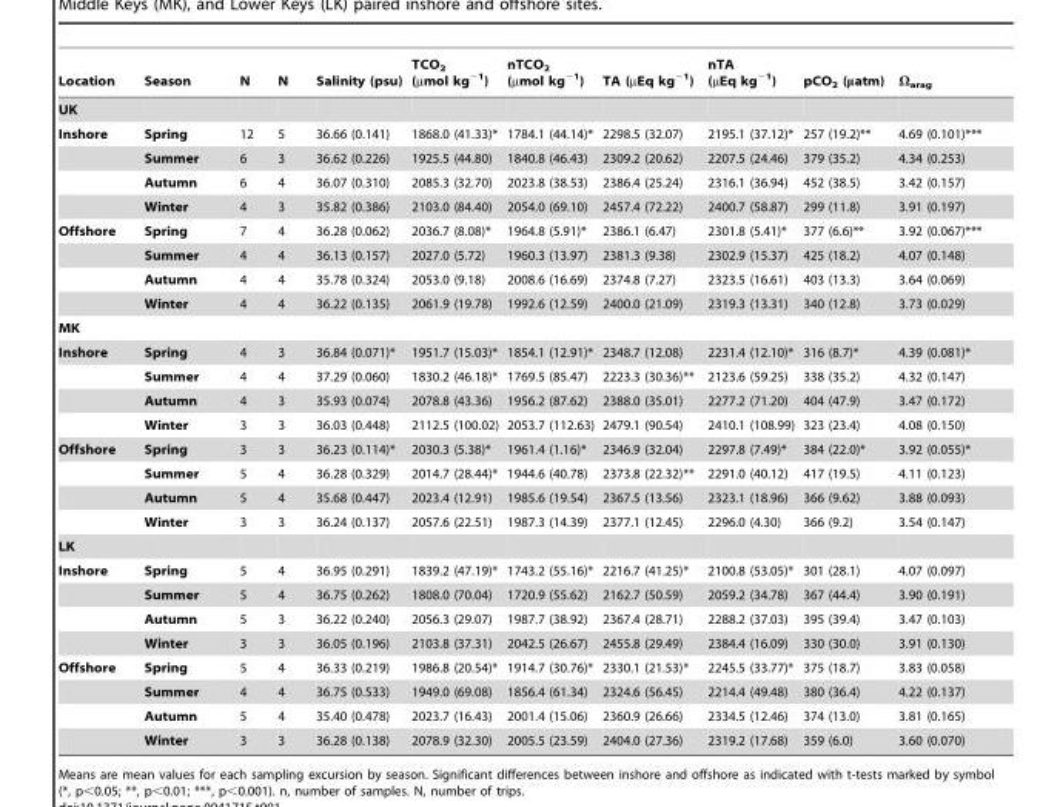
<table><thead><tr><td>Location</td><td>Season</td><td>N</td><td>N</td><td>Salinity (psu)</td><td>TCO<sub>2</sub> (µmol kg<sup>−1</sup>)</td><td>nTCO<sub>2</sub> (µmol kg<sup>−1</sup>)</td><td>TA (µEq kg<sup>−1</sup>)</td><td>nTA (µEq kg<sup>−1</sup>)</td><td>pCO<sub>2</sub> (μatm)</td><td>Ω<sub>arag</sub></td></tr></thead><tbody><tr><td colspan="11">UK</td></tr><tr><td rowspan="4">Inshore</td><td>Spring</td><td>12</td><td>5</td><td>36.66 (0.141)</td><td>1868.0 (41.33)*</td><td>1784.1 (44.14)*</td><td>2298.5 (32.07)</td><td>2195.1 (37.12)*</td><td>257 (19.2)**</td><td>4.69 (0.101)***</td></tr><tr><td>Summer</td><td>6</td><td>3</td><td>36.62 (0.226)</td><td>1925.5 (44.80)</td><td>1840.8 (46.43)</td><td>2309.2 (20.62)</td><td>2207.5 (24.46)</td><td>379 (35.2)</td><td>4.34 (0.253)</td></tr><tr><td>Autumn</td><td>6</td><td>4</td><td>36.07 (0.310)</td><td>2085.3 (32.70)</td><td>2023.8 (38.53)</td><td>2386.4 (25.24)</td><td>2316.1 (36.94)</td><td>452 (38.5)</td><td>3.42 (0.157)</td></tr><tr><td>Winter</td><td>4</td><td>3</td><td>35.82 (0.386)</td><td>2103.0 (84.40)</td><td>2054.0 (69.10)</td><td>2457.4 (72.22)</td><td>2400.7 (58.87)</td><td>299 (11.8)</td><td>3.91 (0.197)</td></tr><tr><td rowspan="4">Offshore</td><td>Spring</td><td>7</td><td>4</td><td>36.28 (0.062)</td><td>2036.7 (8.08)*</td><td>1964.8 (5.91)*</td><td>2386.1 (6.47)</td><td>2301.8 (5.41)*</td><td>377 (6.6)**</td><td>3.92 (0.067)***</td></tr><tr><td>Summer</td><td>4</td><td>4</td><td>36.13 (0.157)</td><td>2027.0 (5.72)</td><td>1960.3 (13.97)</td><td>2381.3 (9.38)</td><td>2302.9 (15.37)</td><td>425 (18.2)</td><td>4.07 (0.148)</td></tr><tr><td>Autumn</td><td>4</td><td>4</td><td>35.78 (0.324)</td><td>2053.0 (9.18)</td><td>2008.6 (16.69)</td><td>2374.8 (7.27)</td><td>2323.5 (16.61)</td><td>403 (13.3)</td><td>3.64 (0.069)</td></tr><tr><td>Winter</td><td>4</td><td>4</td><td>36.22 (0.135)</td><td>2061.9 (19.78)</td><td>1992.6 (12.59)</td><td>2400.0 (21.09)</td><td>2319.3 (13.31)</td><td>340 (12.8)</td><td>3.73 (0.029)</td></tr><tr><td colspan="11">MK</td></tr><tr><td rowspan="4">Inshore</td><td>Spring</td><td>4</td><td>3</td><td>36.84 (0.071)*</td><td>1951.7 (15.03)*</td><td>1854.1 (12.91)*</td><td>2348.7 (12.08)</td><td>2231.4 (12.10)*</td><td>316 (8.7)*</td><td>4.39 (0.081)*</td></tr><tr><td>Summer</td><td>4</td><td>4</td><td>37.29 (0.060)</td><td>1830.2 (46.18)*</td><td>1769.5 (85.47)</td><td>2223.3 (30.36)**</td><td>2123.6 (59.25)</td><td>338 (35.2)</td><td>4.32 (0.147)</td></tr><tr><td>Autumn</td><td>4</td><td>3</td><td>35.93 (0.074)</td><td>2078.8 (43.36)</td><td>1956.2 (87.62)</td><td>2388.0 (35.01)</td><td>2277.2 (71.20)</td><td>404 (47.9)</td><td>3.47 (0.172)</td></tr><tr><td>Winter</td><td>3</td><td>3</td><td>36.03 (0.448)</td><td>2112.5 (100.02)</td><td>2053.7 (112.63)</td><td>2479.1 (90.54)</td><td>2410.1 (108.99)</td><td>323 (23.4)</td><td>4.08 (0.150)</td></tr><tr><td rowspan="4">Offshore</td><td>Spring</td><td>3</td><td>3</td><td>36.23 (0.114)*</td><td>2030.3 (5.38)*</td><td>1961.4 (1.16)*</td><td>2346.9 (32.04)</td><td>2297.8 (7.49)*</td><td>384 (22.0)*</td><td>3.92 (0.055)*</td></tr><tr><td>Summer</td><td>5</td><td>4</td><td>36.28 (0.329)</td><td>2014.7 (28.44)*</td><td>1944.6 (40.78)</td><td>2373.8 (22.32)**</td><td>2291.0 (40.12)</td><td>417 (19.5)</td><td>4.11 (0.123)</td></tr><tr><td>Autumn</td><td>5</td><td>4</td><td>35.68 (0.447)</td><td>2023.4 (12.91)</td><td>1985.6 (19.54)</td><td>2367.5 (13.56)</td><td>2323.1 (18.96)</td><td>366 (9.62)</td><td>3.88 (0.093)</td></tr><tr><td>Winter</td><td>3</td><td>3</td><td>36.24 (0.137)</td><td>2057.6 (22.51)</td><td>1987.3 (14.39)</td><td>2377.1 (12.45)</td><td>2296.0 (4.30)</td><td>366 (9.2)</td><td>3.54 (0.147)</td></tr><tr><td colspan="11">LK</td></tr><tr><td rowspan="4">Inshore</td><td>Spring</td><td>5</td><td>4</td><td>36.95 (0.291)</td><td>1839.2 (47.19)*</td><td>1743.2 (55.16)*</td><td>2216.7 (41.25)*</td><td>2100.8 (53.05)*</td><td>301 (28.1)</td><td>4.07 (0.097)</td></tr><tr><td>Summer</td><td>5</td><td>4</td><td>36.75 (0.262)</td><td>1808.0 (70.04)</td><td>1720.9 (55.62)</td><td>2162.7 (50.59)</td><td>2059.2 (34.78)</td><td>367 (44.4)</td><td>3.90 (0.191)</td></tr><tr><td>Autumn</td><td>5</td><td>3</td><td>36.22 (0.240)</td><td>2056.3 (29.07)</td><td>1987.7 (38.92)</td><td>2367.4 (28.71)</td><td>2288.2 (37.03)</td><td>395 (39.4)</td><td>3.47 (0.103)</td></tr><tr><td>Winter</td><td>3</td><td>3</td><td>36.05 (0.196)</td><td>2103.8 (37.31)</td><td>2042.5 (26.67)</td><td>2455.8 (29.49)</td><td>2384.4 (16.09)</td><td>330 (30.0)</td><td>3.91 (0.130)</td></tr><tr><td rowspan="4">Offshore</td><td>Spring</td><td>5</td><td>4</td><td>36.33 (0.219)</td><td>1986.8 (20.54)*</td><td>1914.7 (30.76)*</td><td>2330.1 (21.53)*</td><td>2245.5 (33.77)*</td><td>375 (18.7)</td><td>3.83 (0.058)</td></tr><tr><td>Summer</td><td>4</td><td>4</td><td>36.75 (0.533)</td><td>1949.0 (69.08)</td><td>1856.4 (61.34)</td><td>2324.6 (56.45)</td><td>2214.4 (49.48)</td><td>380 (36.4)</td><td>4.22 (0.137)</td></tr><tr><td>Autumn</td><td>5</td><td>4</td><td>35.40 (0.478)</td><td>2023.7 (16.43)</td><td>2001.4 (15.06)</td><td>2360.9 (26.66)</td><td>2334.5 (12.46)</td><td>374 (13.0)</td><td>3.81 (0.165)</td></tr><tr><td>Winter</td><td>3</td><td>3</td><td>36.28 (0.138)</td><td>2078.9 (32.30)</td><td>2005.5 (23.59)</td><td>2404.0 (27.36)</td><td>2319.2 (17.68)</td><td>359 (6.0)</td><td>3.60 (0.070)</td></tr></tbody></table>